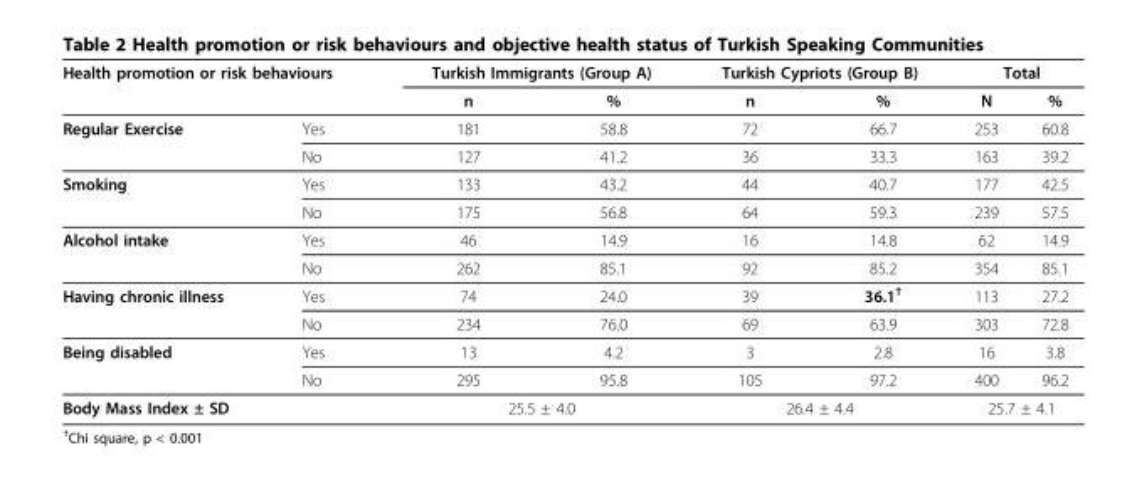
<table><thead><tr><td colspan="2">Health promotion or risk behaviours</td><td colspan="2">Turkish Immigrants (Group A)</td><td colspan="2">Turkish Cypriots (Group B)</td><td colspan="2">Total</td></tr><tr><td></td><td></td><td>n</td><td>%</td><td>n</td><td>%</td><td>N</td><td>%</td></tr></thead><tbody><tr><td rowspan="2">Regular Exercise</td><td>Yes</td><td>181</td><td>58.8</td><td>72</td><td>66.7</td><td>253</td><td>60.8</td></tr><tr><td>No</td><td>127</td><td>41.2</td><td>36</td><td>33.3</td><td>163</td><td>39.2</td></tr><tr><td rowspan="2">Smoking</td><td>Yes</td><td>133</td><td>43.2</td><td>44</td><td>40.7</td><td>177</td><td>42.5</td></tr><tr><td>No</td><td>175</td><td>56.8</td><td>64</td><td>59.3</td><td>239</td><td>57.5</td></tr><tr><td rowspan="2">Alcohol intake</td><td>Yes</td><td>46</td><td>14.9</td><td>16</td><td>14.8</td><td>62</td><td>14.9</td></tr><tr><td>No</td><td>262</td><td>85.1</td><td>92</td><td>85.2</td><td>354</td><td>85.1</td></tr><tr><td rowspan="2">Having chronic illness</td><td>Yes</td><td>74</td><td>24.0</td><td>39</td><td>36.1<sup>†</sup></td><td>113</td><td>27.2</td></tr><tr><td>No</td><td>234</td><td>76.0</td><td>69</td><td>63.9</td><td>303</td><td>72.8</td></tr><tr><td rowspan="2">Being disabled</td><td>Yes</td><td>13</td><td>4.2</td><td>3</td><td>2.8</td><td>16</td><td>3.8</td></tr><tr><td>No</td><td>295</td><td>95.8</td><td>105</td><td>97.2</td><td>400</td><td>96.2</td></tr><tr><td colspan="2">Body Mass Index ± SD</td><td colspan="2">25.5 ± 4.0</td><td colspan="2">26.4 ± 4.4</td><td colspan="2">25.7 ± 4.1</td></tr></tbody></table>